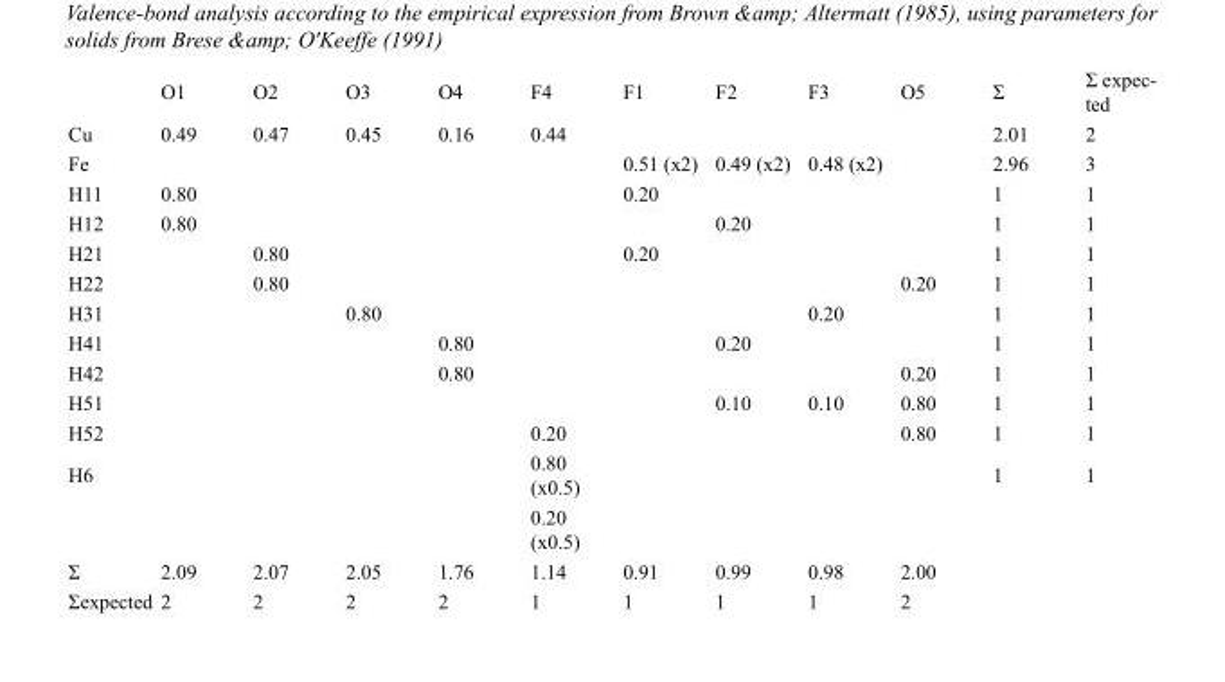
<table><thead><tr><td></td><td>O1</td><td>O2</td><td>O3</td><td>O4</td><td>F4</td><td>F1</td><td>F2</td><td>F3</td><td>O5</td><td>Σ</td><td>Σ expec- ted</td></tr></thead><tbody><tr><td>Cu</td><td>0.49</td><td>0.47</td><td>0.45</td><td>0.16</td><td>0.44</td><td></td><td></td><td></td><td></td><td>2.01</td><td>2</td></tr><tr><td>Fe</td><td></td><td></td><td></td><td></td><td></td><td>0.51 (x2)</td><td>0.49 (x2)</td><td>0.48 (x2)</td><td></td><td>2.96</td><td>3</td></tr><tr><td>H11</td><td>0.80</td><td></td><td></td><td></td><td></td><td>0.20</td><td></td><td></td><td></td><td>1</td><td>1</td></tr><tr><td>H12</td><td>0.80</td><td></td><td></td><td></td><td></td><td></td><td>0.20</td><td></td><td></td><td>1</td><td>1</td></tr><tr><td>H21</td><td></td><td>0.80</td><td></td><td></td><td></td><td>0.20</td><td></td><td></td><td></td><td>1</td><td>1</td></tr><tr><td>H22</td><td></td><td>0.80</td><td></td><td></td><td></td><td></td><td></td><td></td><td>0.20</td><td>1</td><td>1</td></tr><tr><td>H31</td><td></td><td></td><td>0.80</td><td></td><td></td><td></td><td></td><td>0.20</td><td></td><td>1</td><td>1</td></tr><tr><td>H41</td><td></td><td></td><td></td><td>0.80</td><td></td><td></td><td>0.20</td><td></td><td></td><td>1</td><td>1</td></tr><tr><td>H42</td><td></td><td></td><td></td><td>0.80</td><td></td><td></td><td></td><td></td><td>0.20</td><td>1</td><td>1</td></tr><tr><td>H51</td><td></td><td></td><td></td><td></td><td></td><td></td><td>0.10</td><td>0.10</td><td>0.80</td><td>1</td><td>1</td></tr><tr><td>H52</td><td></td><td></td><td></td><td></td><td>0.20</td><td></td><td></td><td></td><td>0.80</td><td>1</td><td>1</td></tr><tr><td rowspan="2">H6</td><td></td><td></td><td></td><td></td><td>0.80 (x0.5)</td><td></td><td></td><td></td><td></td><td>1</td><td>1</td></tr><tr><td></td><td></td><td></td><td></td><td>0.20 (x0.5)</td><td></td><td></td><td></td><td></td><td></td><td></td></tr><tr><td>Σ</td><td>2.09</td><td>2.07</td><td>2.05</td><td>1.76</td><td>1.14</td><td>0.91</td><td>0.99</td><td>0.98</td><td>2.00</td><td></td><td></td></tr><tr><td>Σexpected</td><td>2</td><td>2</td><td>2</td><td>2</td><td>1</td><td>1</td><td>1</td><td>1</td><td>2</td><td></td><td></td></tr></tbody></table>